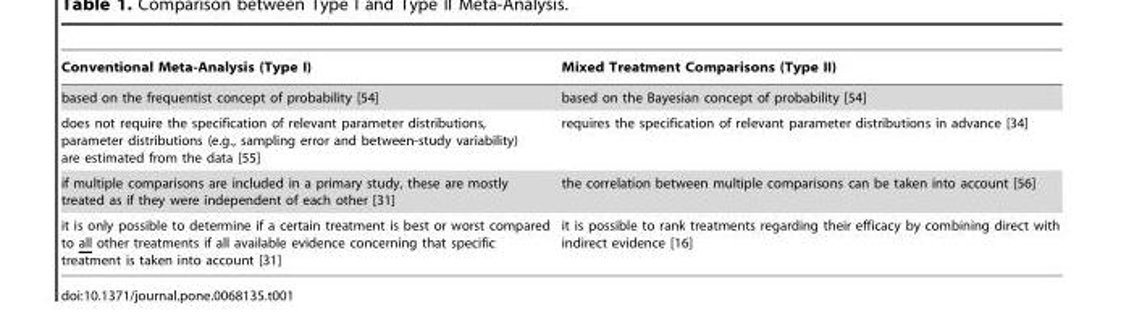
<table><thead><tr><td>Conventional Meta-Analysis (Type I)</td><td>Mixed Treatment Comparisons (Type II)</td></tr></thead><tbody><tr><td>based on the frequentist concept of probability [54]</td><td>based on the Bayesian concept of probability [54]</td></tr><tr><td>does not require the specification of relevant parameter distributions, parameter distributions (e.g., sampling error and between-study variability) are estimated from the data [55]</td><td>requires the specification of relevant parameter distributions in advance [34]</td></tr><tr><td>if multiple comparisons are included in a primary study, these are mostly treated as if they were independent of each other [31]</td><td>the correlation between multiple comparisons can be taken into account [56]</td></tr><tr><td>it is only possible to determine if a certain treatment is best or worst compared to all other treatments if all available evidence concerning that specific treatment is taken into account [31]</td><td>it is possible to rank treatments regarding their efficacy by combining direct with indirect evidence [16]</td></tr></tbody></table>